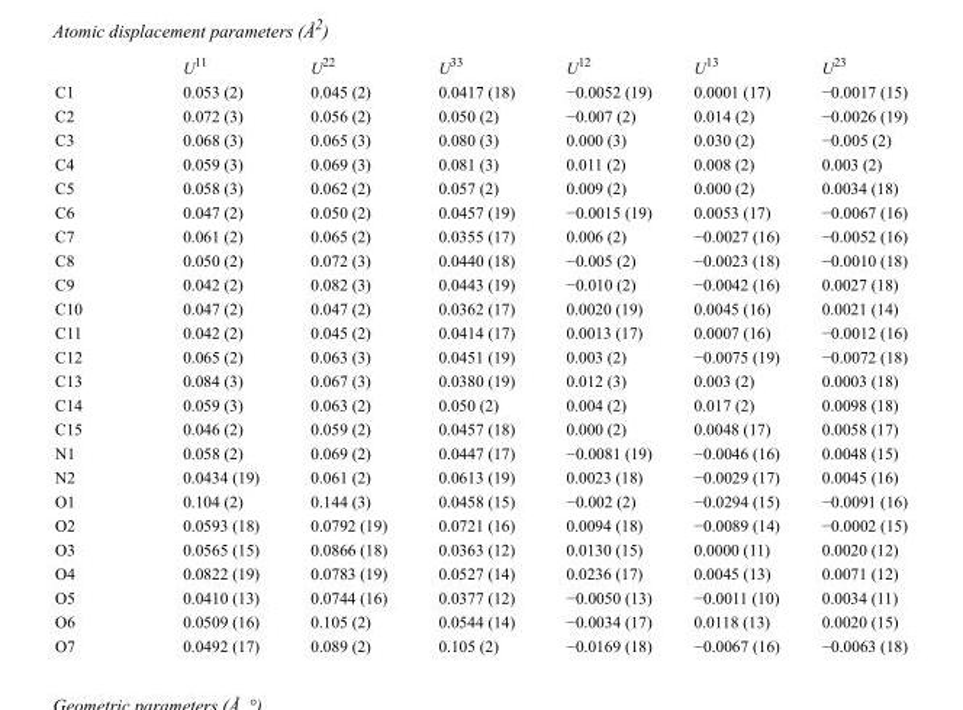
<table><thead><tr><td></td><td>U<sup>11</sup></td><td>U<sup>22</sup></td><td>U<sup>33</sup></td><td>U<sup>12</sup></td><td>U<sup>13</sup></td><td>U<sup>23</sup></td></tr></thead><tbody><tr><td>C1</td><td>0.053 (2)</td><td>0.045 (2)</td><td>0.0417 (18)</td><td>−0.0052 (19)</td><td>0.0001 (17)</td><td>−0.0017 (15)</td></tr><tr><td>C2</td><td>0.072 (3)</td><td>0.056 (2)</td><td>0.050 (2)</td><td>−0.007 (2)</td><td>0.014 (2)</td><td>−0.0026 (19)</td></tr><tr><td>C3</td><td>0.068 (3)</td><td>0.065 (3)</td><td>0.080 (3)</td><td>0.000 (3)</td><td>0.030 (2)</td><td>−0.005 (2)</td></tr><tr><td>C4</td><td>0.059 (3)</td><td>0.069 (3)</td><td>0.081 (3)</td><td>0.011 (2)</td><td>0.008 (2)</td><td>0.003 (2)</td></tr><tr><td>C5</td><td>0.058 (3)</td><td>0.062 (2)</td><td>0.057 (2)</td><td>0.009 (2)</td><td>0.000 (2)</td><td>0.0034 (18)</td></tr><tr><td>C6</td><td>0.047 (2)</td><td>0.050 (2)</td><td>0.0457 (19)</td><td>−0.0015 (19)</td><td>0.0053 (17)</td><td>−0.0067 (16)</td></tr><tr><td>C7</td><td>0.061 (2)</td><td>0.065 (2)</td><td>0.0355 (17)</td><td>0.006 (2)</td><td>−0.0027 (16)</td><td>−0.0052 (16)</td></tr><tr><td>C8</td><td>0.050 (2)</td><td>0.072 (3)</td><td>0.0440 (18)</td><td>−0.005 (2)</td><td>−0.0023 (18)</td><td>−0.0010 (18)</td></tr><tr><td>C9</td><td>0.042 (2)</td><td>0.082 (3)</td><td>0.0443 (19)</td><td>−0.010 (2)</td><td>−0.0042 (16)</td><td>0.0027 (18)</td></tr><tr><td>C10</td><td>0.047 (2)</td><td>0.047 (2)</td><td>0.0362 (17)</td><td>0.0020 (19)</td><td>0.0045 (16)</td><td>0.0021 (14)</td></tr><tr><td>C11</td><td>0.042 (2)</td><td>0.045 (2)</td><td>0.0414 (17)</td><td>0.0013 (17)</td><td>0.0007 (16)</td><td>−0.0012 (16)</td></tr><tr><td>C12</td><td>0.065 (2)</td><td>0.063 (3)</td><td>0.0451 (19)</td><td>0.003 (2)</td><td>−0.0075 (19)</td><td>−0.0072 (18)</td></tr><tr><td>C13</td><td>0.084 (3)</td><td>0.067 (3)</td><td>0.0380 (19)</td><td>0.012 (3)</td><td>0.003 (2)</td><td>0.0003 (18)</td></tr><tr><td>C14</td><td>0.059 (3)</td><td>0.063 (2)</td><td>0.050 (2)</td><td>0.004 (2)</td><td>0.017 (2)</td><td>0.0098 (18)</td></tr><tr><td>C15</td><td>0.046 (2)</td><td>0.059 (2)</td><td>0.0457 (18)</td><td>0.000 (2)</td><td>0.0048 (17)</td><td>0.0058 (17)</td></tr><tr><td>N1</td><td>0.058 (2)</td><td>0.069 (2)</td><td>0.0447 (17)</td><td>−0.0081 (19)</td><td>−0.0046 (16)</td><td>0.0048 (15)</td></tr><tr><td>N2</td><td>0.0434 (19)</td><td>0.061 (2)</td><td>0.0613 (19)</td><td>0.0023 (18)</td><td>−0.0029 (17)</td><td>0.0045 (16)</td></tr><tr><td>O1</td><td>0.104 (2)</td><td>0.144 (3)</td><td>0.0458 (15)</td><td>−0.002 (2)</td><td>−0.0294 (15)</td><td>−0.0091 (16)</td></tr><tr><td>O2</td><td>0.0593 (18)</td><td>0.0792 (19)</td><td>0.0721 (16)</td><td>0.0094 (18)</td><td>−0.0089 (14)</td><td>−0.0002 (15)</td></tr><tr><td>O3</td><td>0.0565 (15)</td><td>0.0866 (18)</td><td>0.0363 (12)</td><td>0.0130 (15)</td><td>0.0000 (11)</td><td>0.0020 (12)</td></tr><tr><td>O4</td><td>0.0822 (19)</td><td>0.0783 (19)</td><td>0.0527 (14)</td><td>0.0236 (17)</td><td>0.0045 (13)</td><td>0.0071 (12)</td></tr><tr><td>O5</td><td>0.0410 (13)</td><td>0.0744 (16)</td><td>0.0377 (12)</td><td>−0.0050 (13)</td><td>−0.0011 (10)</td><td>0.0034 (11)</td></tr><tr><td>O6</td><td>0.0509 (16)</td><td>0.105 (2)</td><td>0.0544 (14)</td><td>−0.0034 (17)</td><td>0.0118 (13)</td><td>0.0020 (15)</td></tr><tr><td>O7</td><td>0.0492 (17)</td><td>0.089 (2)</td><td>0.105 (2)</td><td>−0.0169 (18)</td><td>−0.0067 (16)</td><td>−0.0063 (18)</td></tr></tbody></table>